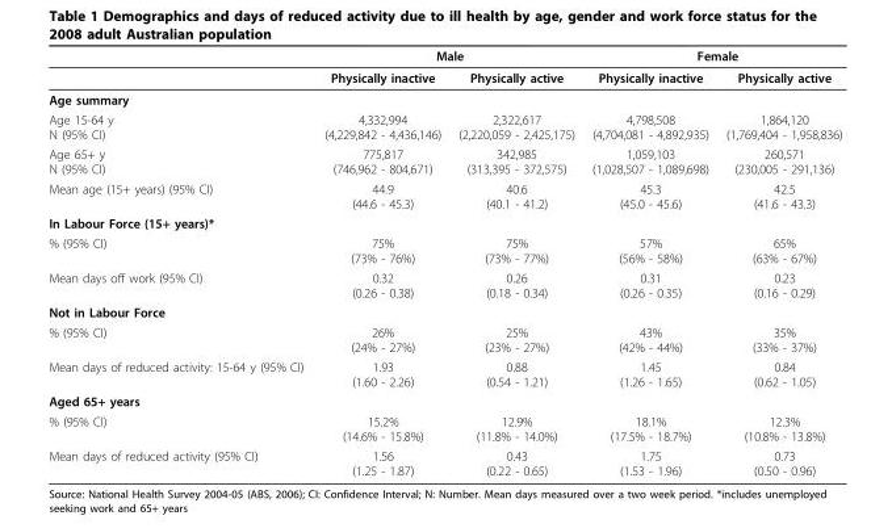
<table><thead><tr><td rowspan="2"></td><td colspan="2">Male</td><td colspan="2">Female</td></tr><tr><td>Physically inactive</td><td>Physically active</td><td>Physically inactive</td><td>Physically active</td></tr></thead><tbody><tr><td colspan="5">Age summary</td></tr><tr><td>Age 15-64 y N (95% CI)</td><td>4,332,994 (4,229,842 - 4,436,146)</td><td>2,322,617 (2,220,059 - 2,425,175)</td><td>4,798,508 (4,704,081 - 4,892,935)</td><td>1,864,120 (1,769,404 - 1,958,836)</td></tr><tr><td>Age 65+ y N (95% CI)</td><td>775,817 (746,962 - 804,671)</td><td>342,985 (313,395 - 372,575)</td><td>1,059,103 (1,028,507 - 1,089,698)</td><td>260,571 (230,005 - 291,136)</td></tr><tr><td>Mean age (15+ years) (95% CI)</td><td>44.9 (44.6 - 45.3)</td><td>40.6 (40.1 - 41.2)</td><td>45.3 (45.0 - 45.6)</td><td>42.5 (41.6 - 43.3)</td></tr><tr><td colspan="5">In Labour Force (15+ years)*</td></tr><tr><td>% (95% CI)</td><td>75% (73% - 76%)</td><td>75% (73% - 77%)</td><td>57% (56% - 58%)</td><td>65% (63% - 67%)</td></tr><tr><td>Mean days off work (95% CI)</td><td>0.32 (0.26 - 0.38)</td><td>0.26 (0.18 - 0.34)</td><td>0.31 (0.26 - 0.35)</td><td>0.23 (0.16 - 0.29)</td></tr><tr><td colspan="5">Not in Labour Force</td></tr><tr><td>% (95% CI)</td><td>26% (24% - 27%)</td><td>25% (23% - 27%)</td><td>43% (42% - 44%)</td><td>35% (33% - 37%)</td></tr><tr><td>Mean days of reduced activity: 15-64 y (95% CI)</td><td>1.93 (1.60 - 2.26)</td><td>0.88 (0.54 - 1.21)</td><td>1.45 (1.26 - 1.65)</td><td>0.84 (0.62 - 1.05)</td></tr><tr><td colspan="5">Aged 65+ years</td></tr><tr><td>% (95% CI)</td><td>15.2% (14.6% - 15.8%)</td><td>12.9% (11.8% - 14.0%)</td><td>18.1% (17.5% - 18.7%)</td><td>12.3% (10.8% - 13.8%)</td></tr><tr><td>Mean days of reduced activity (95% CI)</td><td>1.56 (1.25 - 1.87)</td><td>0.43 (0.22 - 0.65)</td><td>1.75 (1.53 - 1.96)</td><td>0.73 (0.50 - 0.96)</td></tr></tbody></table>